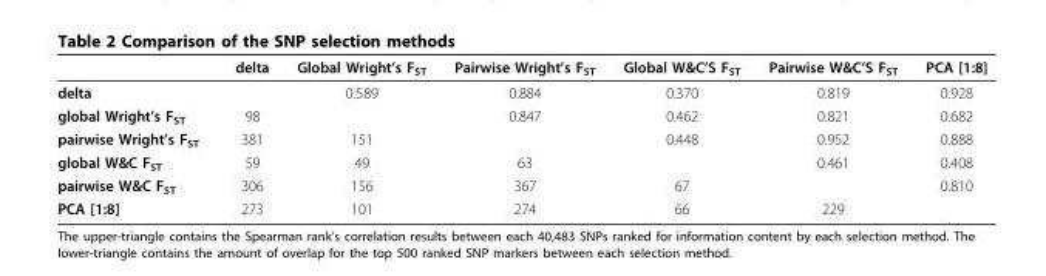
<table><thead><tr><td></td><td>delta</td><td>Global Wright’s F<sub>ST</sub></td><td>Pairwise Wright’s F<sub>ST</sub></td><td>Global W&amp;C’S F<sub>ST</sub></td><td>Pairwise W&amp;C’S F<sub>ST</sub></td><td>PCA [1:8]</td></tr></thead><tbody><tr><td>delta</td><td></td><td>0.589</td><td>0.884</td><td>0.370</td><td>0.819</td><td>0.928</td></tr><tr><td>global Wright’s F<sub>ST</sub></td><td>98</td><td></td><td>0.847</td><td>0.462</td><td>0.821</td><td>0.682</td></tr><tr><td>pairwise Wright’s F<sub>ST</sub></td><td>381</td><td>151</td><td></td><td>0.448</td><td>0.952</td><td>0.888</td></tr><tr><td>global W&amp;C F<sub>ST</sub></td><td>59</td><td>49</td><td>63</td><td></td><td>0.461</td><td>0.408</td></tr><tr><td>pairwise W&amp;C F<sub>ST</sub></td><td>306</td><td>156</td><td>367</td><td>67</td><td></td><td>0.810</td></tr><tr><td>PCA [1:8]</td><td>273</td><td>101</td><td>274</td><td>66</td><td>229</td><td></td></tr></tbody></table>